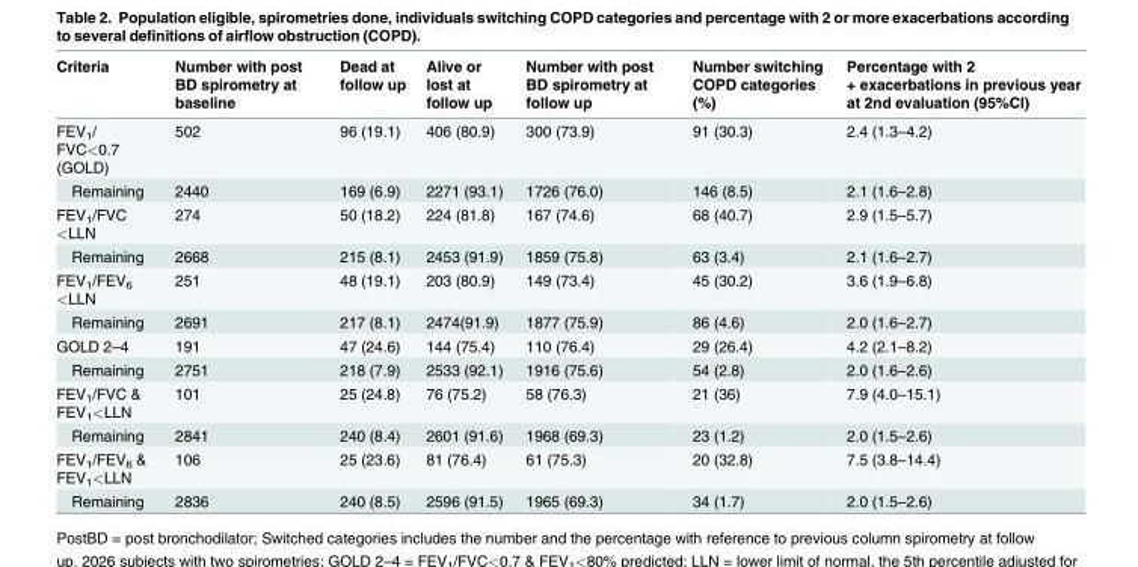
<table><thead><tr><td>Criteria</td><td>Number with post BD spirometry at baseline</td><td>Dead at follow up</td><td>Alive or lost at follow up</td><td>Number with post BD spirometry at follow up</td><td>Number switching COPD categories (%)</td><td>Percentage with 2 + exacerbations in previous year at 2nd evaluation (95%CI)</td></tr></thead><tbody><tr><td>FEV<sub>1</sub>/ FVC&lt;0.7 (GOLD)</td><td>502</td><td>96 (19.1)</td><td>406 (80.9)</td><td>300 (73.9)</td><td>91 (30.3)</td><td>2.4 (1.3–4.2)</td></tr><tr><td>Remaining</td><td>2440</td><td>169 (6.9)</td><td>2271 (93.1)</td><td>1726 (76.0)</td><td>146 (8.5)</td><td>2.1 (1.6–2.8)</td></tr><tr><td>FEV<sub>1</sub>/FVC &lt;LLN</td><td>274</td><td>50 (18.2)</td><td>224 (81.8)</td><td>167 (74.6)</td><td>68 (40.7)</td><td>2.9 (1.5–5.7)</td></tr><tr><td>Remaining</td><td>2668</td><td>215 (8.1)</td><td>2453 (91.9)</td><td>1859 (75.8)</td><td>63 (3.4)</td><td>2.1 (1.6–2.7)</td></tr><tr><td>FEV<sub>1</sub>/FEV<sub>6</sub> &lt;LLN</td><td>251</td><td>48 (19.1)</td><td>203 (80.9)</td><td>149 (73.4)</td><td>45 (30.2)</td><td>3.6 (1.9–6.8)</td></tr><tr><td>Remaining</td><td>2691</td><td>217 (8.1)</td><td>2474(91.9)</td><td>1877 (75.9)</td><td>86 (4.6)</td><td>2.0 (1.6–2.7)</td></tr><tr><td>GOLD 2–4</td><td>191</td><td>47 (24.6)</td><td>144 (75.4)</td><td>110 (76.4)</td><td>29 (26.4)</td><td>4.2 (2.1–8.2)</td></tr><tr><td>Remaining</td><td>2751</td><td>218 (7.9)</td><td>2533 (92.1)</td><td>1916 (75.6)</td><td>54 (2.8)</td><td>2.0 (1.6–2.6)</td></tr><tr><td>FEV<sub>1</sub>/FVC &amp; FEV<sub>1</sub>&lt;LLN</td><td>101</td><td>25 (24.8)</td><td>76 (75.2)</td><td>58 (76.3)</td><td>21 (36)</td><td>7.9 (4.0–15.1)</td></tr><tr><td>Remaining</td><td>2841</td><td>240 (8.4)</td><td>2601 (91.6)</td><td>1968 (69.3)</td><td>23 (1.2)</td><td>2.0 (1.5–2.6)</td></tr><tr><td>FEV<sub>1</sub>/FEV<sub>6</sub> &amp; FEV<sub>1</sub>&lt;LLN</td><td>106</td><td>25 (23.6)</td><td>81 (76.4)</td><td>61 (75.3)</td><td>20 (32.8)</td><td>7.5 (3.8–14.4)</td></tr><tr><td>Remaining</td><td>2836</td><td>240 (8.5)</td><td>2596 (91.5)</td><td>1965 (69.3)</td><td>34 (1.7)</td><td>2.0 (1.5–2.6)</td></tr></tbody></table>